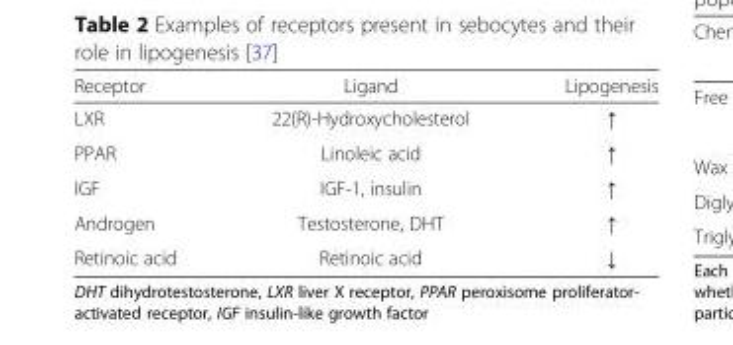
<table><thead><tr><td>Receptor</td><td>Ligand</td><td>Lipogenesis</td></tr></thead><tbody><tr><td>LXR</td><td>22(R)-Hydroxycholesterol</td><td>↑</td></tr><tr><td>PPAR</td><td>Linoleic acid</td><td>↑</td></tr><tr><td>IGF</td><td>IGF-1, insulin</td><td>↑</td></tr><tr><td>Androgen</td><td>Testosterone, DHT</td><td>↑</td></tr><tr><td>Retinoic acid</td><td>Retinoic acid</td><td>↓</td></tr></tbody></table>